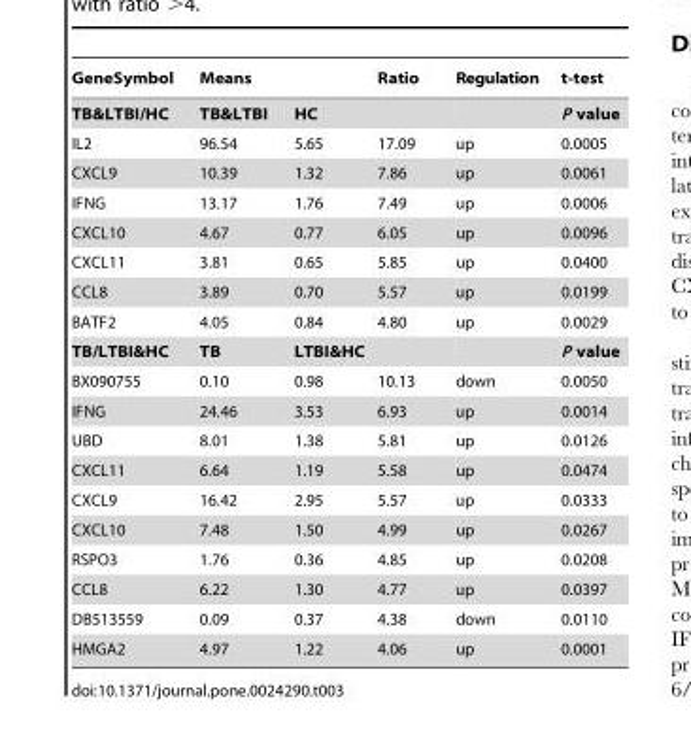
<table><thead><tr><td>GeneSymbol</td><td>Means</td><td></td><td>Ratio</td><td>Regulation</td><td>t-test</td></tr></thead><tbody><tr><td>TB&amp;LTBI/HC</td><td>TB&amp;LTBI</td><td>HC</td><td></td><td></td><td>P value</td></tr><tr><td>IL2</td><td>96.54</td><td>5.65</td><td>17.09</td><td>up</td><td>0.0005</td></tr><tr><td>CXCL9</td><td>10.39</td><td>1.32</td><td>7.86</td><td>up</td><td>0.0061</td></tr><tr><td>IFNG</td><td>13.17</td><td>1.76</td><td>7.49</td><td>up</td><td>0.0006</td></tr><tr><td>CXCL10</td><td>4.67</td><td>0.77</td><td>6.05</td><td>up</td><td>0.0096</td></tr><tr><td>CXCL11</td><td>3.81</td><td>0.65</td><td>5.85</td><td>up</td><td>0.0400</td></tr><tr><td>CCL8</td><td>3.89</td><td>0.70</td><td>5.57</td><td>up</td><td>0.0199</td></tr><tr><td>BATF2</td><td>4.05</td><td>0.84</td><td>4.80</td><td>up</td><td>0.0029</td></tr><tr><td>TB/LTBI&amp;HC</td><td>TB</td><td>LTBI&amp;HC</td><td></td><td></td><td>P value</td></tr><tr><td>BX090755</td><td>0.10</td><td>0.98</td><td>10.13</td><td>down</td><td>0.0050</td></tr><tr><td>IFNG</td><td>24.46</td><td>3.53</td><td>6.93</td><td>up</td><td>0.0014</td></tr><tr><td>UBD</td><td>8.01</td><td>1.38</td><td>5.81</td><td>up</td><td>0.0126</td></tr><tr><td>CXCL11</td><td>6.64</td><td>1.19</td><td>5.58</td><td>up</td><td>0.0474</td></tr><tr><td>CXCL9</td><td>16.42</td><td>2.95</td><td>5.57</td><td>up</td><td>0.0333</td></tr><tr><td>CXCL10</td><td>7.48</td><td>1.50</td><td>4.99</td><td>up</td><td>0.0267</td></tr><tr><td>RSPO3</td><td>1.76</td><td>0.36</td><td>4.85</td><td>up</td><td>0.0208</td></tr><tr><td>CCL8</td><td>6.22</td><td>1.30</td><td>4.77</td><td>up</td><td>0.0397</td></tr><tr><td>DB513559</td><td>0.09</td><td>0.37</td><td>4.38</td><td>down</td><td>0.0110</td></tr><tr><td>HMGA2</td><td>4.97</td><td>1.22</td><td>4.06</td><td>up</td><td>0.0001</td></tr></tbody></table>